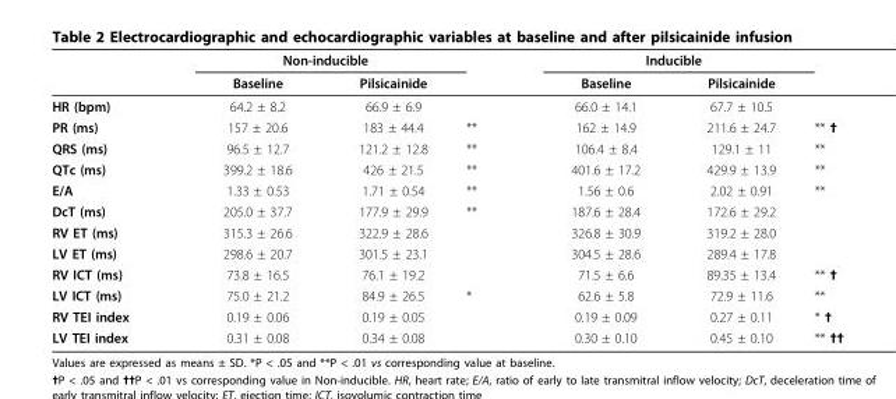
<table><thead><tr><td rowspan="2"></td><td colspan="2">Non-inducible</td><td rowspan="2"></td><td colspan="2">Inducible</td><td rowspan="2"></td></tr><tr><td>Baseline</td><td>Pilsicainide</td><td>Baseline</td><td>Pilsicainide</td></tr></thead><tbody><tr><td>HR (bpm)</td><td>64.2 ± 8.2</td><td>66.9 ± 6.9</td><td></td><td>66.0 ± 14.1</td><td>67.7 ± 10.5</td><td></td></tr><tr><td>PR (ms)</td><td>157 ± 20.6</td><td>183 ± 44.4</td><td>**</td><td>162 ± 14.9</td><td>211.6 ± 24.7</td><td>** ✝</td></tr><tr><td>QRS (ms)</td><td>96.5 ± 12.7</td><td>121.2 ± 12.8</td><td>**</td><td>106.4 ± 8.4</td><td>129.1 ± 11</td><td>**</td></tr><tr><td>QTc (ms)</td><td>399.2 ± 18.6</td><td>426 ± 21.5</td><td>**</td><td>401.6 ± 17.2</td><td>429.9 ± 13.9</td><td>**</td></tr><tr><td>E/A</td><td>1.33 ± 0.53</td><td>1.71 ± 0.54</td><td>**</td><td>1.56 ± 0.6</td><td>2.02 ± 0.91</td><td>**</td></tr><tr><td>DcT (ms)</td><td>205.0 ± 37.7</td><td>177.9 ± 29.9</td><td>**</td><td>187.6 ± 28.4</td><td>172.6 ± 29.2</td><td></td></tr><tr><td>RV ET (ms)</td><td>315.3 ± 26.6</td><td>322.9 ± 28.6</td><td></td><td>326.8 ± 30.9</td><td>319.2 ± 28.0</td><td></td></tr><tr><td>LV ET (ms)</td><td>298.6 ± 20.7</td><td>301.5 ± 23.1</td><td></td><td>304.5 ± 28.6</td><td>289.4 ± 17.8</td><td></td></tr><tr><td>RV ICT (ms)</td><td>73.8 ± 16.5</td><td>76.1 ± 19.2</td><td></td><td>71.5 ± 6.6</td><td>89.35 ± 13.4</td><td>** ✝</td></tr><tr><td>LV ICT (ms)</td><td>75.0 ± 21.2</td><td>84.9 ± 26.5</td><td>*</td><td>62.6 ± 5.8</td><td>72.9 ± 11.6</td><td>**</td></tr><tr><td>RV TEI index</td><td>0.19 ± 0.06</td><td>0.19 ± 0.05</td><td></td><td>0.19 ± 0.09</td><td>0.27 ± 0.11</td><td>* ✝</td></tr><tr><td>LV TEI index</td><td>0.31 ± 0.08</td><td>0.34 ± 0.08</td><td></td><td>0.30 ± 0.10</td><td>0.45 ± 0.10</td><td>** ✝✝</td></tr></tbody></table>